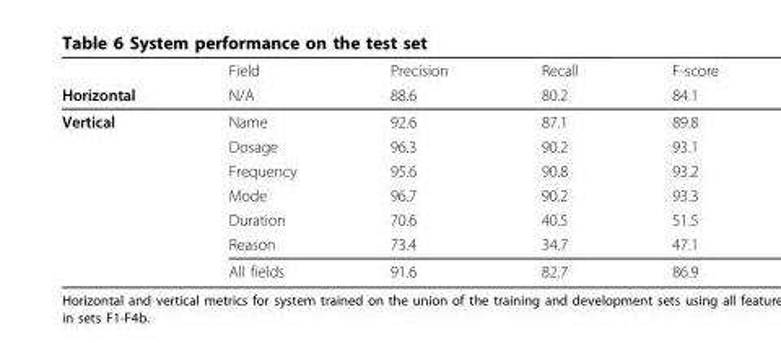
<table><thead><tr><td rowspan="2">Horizontal</td><td rowspan="2">Field N/A</td><td rowspan="2">Precision 88.6</td><td rowspan="2">Recall 80.2</td><td rowspan="2">F-score 84.1</td></tr><tr></tr></thead><tbody><tr><td rowspan="7">Vertical</td><td>Name</td><td>92.6</td><td>87.1</td><td>89.8</td></tr><tr><td>Dosage</td><td>96.3</td><td>90.2</td><td>93.1</td></tr><tr><td>Frequency</td><td>95.6</td><td>90.8</td><td>93.2</td></tr><tr><td>Mode</td><td>96.7</td><td>90.2</td><td>93.3</td></tr><tr><td>Duration</td><td>70.6</td><td>40.5</td><td>51.5</td></tr><tr><td>Reason</td><td>73.4</td><td>34.7</td><td>47.1</td></tr><tr><td>All fields</td><td>91.6</td><td>82.7</td><td>86.9</td></tr></tbody></table>